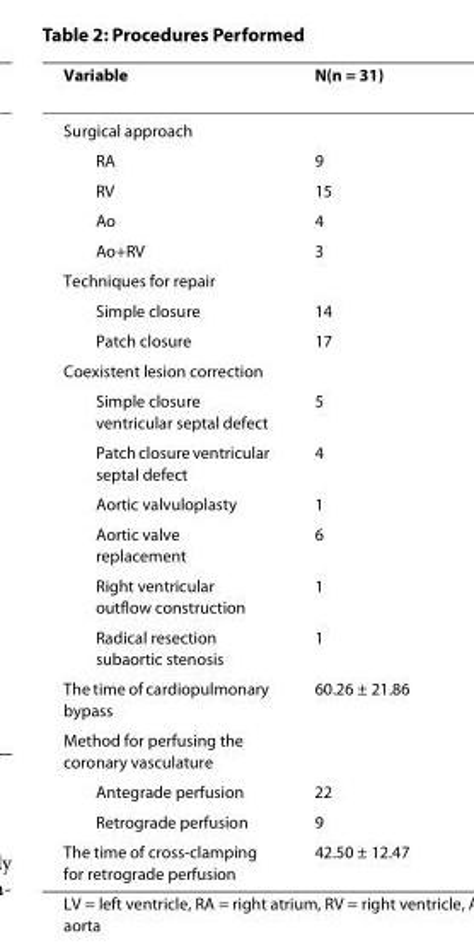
<table><thead><tr><td>Variable</td><td>N(n = 31)</td></tr></thead><tbody><tr><td colspan="2">Surgical approach</td></tr><tr><td>RA</td><td>9</td></tr><tr><td>RV</td><td>15</td></tr><tr><td>Ao</td><td>4</td></tr><tr><td>Ao+RV</td><td>3</td></tr><tr><td colspan="2">Techniques for repair</td></tr><tr><td>Simple closure</td><td>14</td></tr><tr><td>Patch closure</td><td>17</td></tr><tr><td colspan="2">Coexistent lesion correction</td></tr><tr><td>Simple closure ventricular septal defect</td><td>5</td></tr><tr><td>Patch closure ventricular septal defect</td><td>4</td></tr><tr><td>Aortic valvuloplasty</td><td>1</td></tr><tr><td>Aortic valve replacement</td><td>6</td></tr><tr><td>Right ventricular outflow construction</td><td>1</td></tr><tr><td>Radical resection subaortic stenosis</td><td>1</td></tr><tr><td>The time of cardiopulmonary bypass</td><td>60.26 ± 21.86</td></tr><tr><td colspan="2">Method for perfusing the coronary vasculature</td></tr><tr><td>Antegrade perfusion</td><td>22</td></tr><tr><td>Retrograde perfusion</td><td>9</td></tr><tr><td>The time of cross-clamping for retrograde perfusion</td><td>42.50 ± 12.47</td></tr></tbody></table>